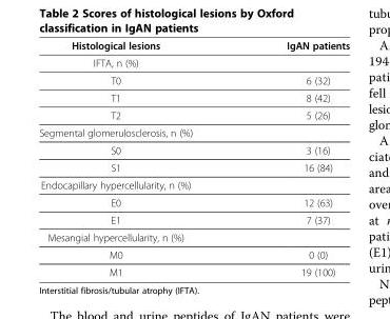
<table><thead><tr><td>Histological lesions</td><td>IgAN patients</td></tr></thead><tbody><tr><td colspan="2">IFTA, n (%)</td></tr><tr><td>T0</td><td>6 (32)</td></tr><tr><td>T1</td><td>8 (42)</td></tr><tr><td>T2</td><td>5 (26)</td></tr><tr><td colspan="2">Segmental glomerulosclerosis, n (%)</td></tr><tr><td>S0</td><td>3 (16)</td></tr><tr><td>S1</td><td>16 (84)</td></tr><tr><td colspan="2">Endocapillary hypercellularity, n (%)</td></tr><tr><td>E0</td><td>12 (63)</td></tr><tr><td>E1</td><td>7 (37)</td></tr><tr><td colspan="2">Mesangial hypercellularity, n (%)</td></tr><tr><td>M0</td><td>0 (0)</td></tr><tr><td>M1</td><td>19 (100)</td></tr></tbody></table>